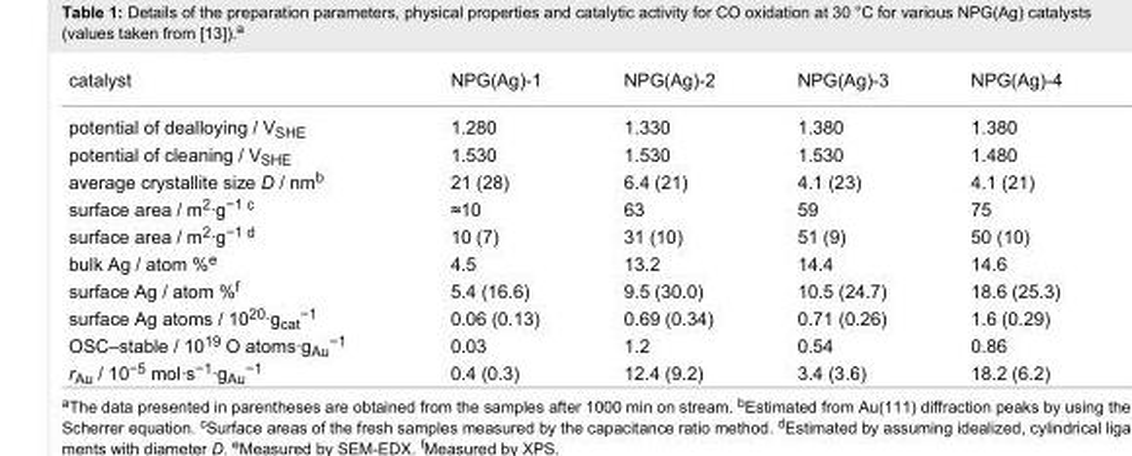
<table><tbody><tr><td>catalyst</td><td>NPG(Ag)-1</td><td>NPG(Ag)-2</td><td>NPG(Ag)-3</td><td>NPG(Ag)-4</td></tr><tr><td>potential of dealloying / V<sub>SHE</sub></td><td>1.280</td><td>1.330</td><td>1.380</td><td>1.380</td></tr><tr><td>potential of cleaning / V<sub>SHE</sub></td><td>1.530</td><td>1.530</td><td>1.530</td><td>1.480</td></tr><tr><td>average crystallite size D / nm<sup>b</sup></td><td>21 (28)</td><td>6.4 (21)</td><td>4.1 (23)</td><td>4.1 (21)</td></tr><tr><td>surface area / m<sup>2</sup>·g<sup>−1 c</sup></td><td>≈10</td><td>63</td><td>59</td><td>75</td></tr><tr><td>surface area / m<sup>2</sup>·g<sup>−1 d</sup></td><td>10 (7)</td><td>31 (10)</td><td>51 (9)</td><td>50 (10)</td></tr><tr><td>bulk Ag / atom %<sup>e</sup></td><td>4.5</td><td>13.2</td><td>14.4</td><td>14.6</td></tr><tr><td>surface Ag / atom %<sup>f</sup></td><td>5.4 (16.6)</td><td>9.5 (30.0)</td><td>10.5 (24.7)</td><td>18.6 (25.3)</td></tr><tr><td>surface Ag atoms / 10<sup>20</sup>·g<sub>cat</sub><sup>−1</sup></td><td>0.06 (0.13)</td><td>0.69 (0.34)</td><td>0.71 (0.26)</td><td>1.6 (0.29)</td></tr><tr><td>OSC–stable / 10<sup>19</sup> O atoms·g<sub>Au</sub><sup>−1</sup></td><td>0.03</td><td>1.2</td><td>0.54</td><td>0.86</td></tr><tr><td>r<sub>Au</sub> / 10<sup>−5</sup> mol·s<sup>−1</sup>·g<sub>Au</sub><sup>−1</sup></td><td>0.4 (0.3)</td><td>12.4 (9.2)</td><td>3.4 (3.6)</td><td>18.2 (6.2)</td></tr></tbody></table>